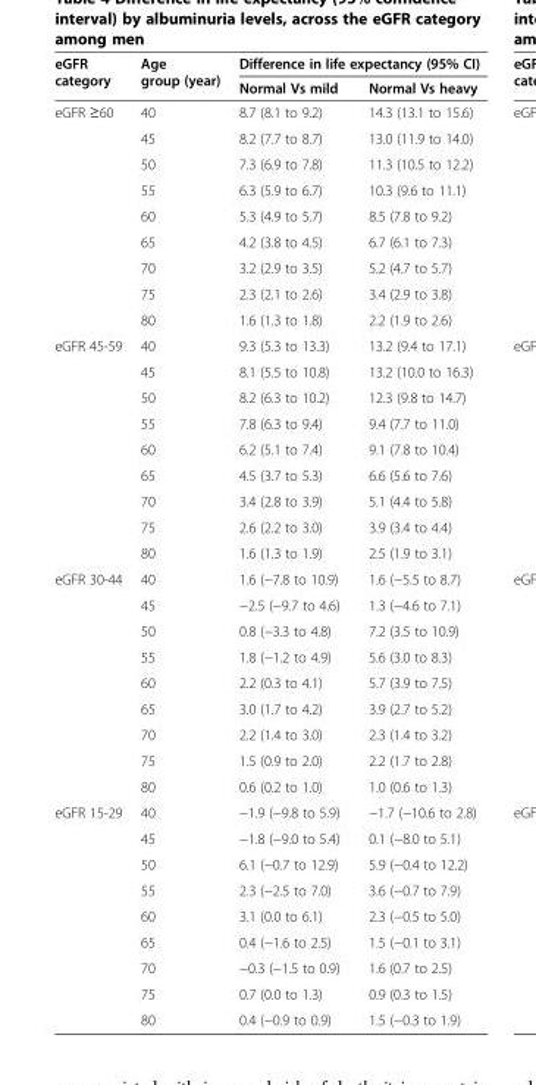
<table><thead><tr><td rowspan="2">eGFR category</td><td rowspan="2">Age group (year)</td><td colspan="2">Difference in life expectancy (95% CI)</td></tr><tr><td>Normal Vs mild</td><td>Normal Vs heavy</td></tr></thead><tbody><tr><td rowspan="9">eGFR ≥60</td><td>40</td><td>8.7 (8.1 to 9.2)</td><td>14.3 (13.1 to 15.6)</td></tr><tr><td>45</td><td>8.2 (7.7 to 8.7)</td><td>13.0 (11.9 to 14.0)</td></tr><tr><td>50</td><td>7.3 (6.9 to 7.8)</td><td>11.3 (10.5 to 12.2)</td></tr><tr><td>55</td><td>6.3 (5.9 to 6.7)</td><td>10.3 (9.6 to 11.1)</td></tr><tr><td>60</td><td>5.3 (4.9 to 5.7)</td><td>8.5 (7.8 to 9.2)</td></tr><tr><td>65</td><td>4.2 (3.8 to 4.5)</td><td>6.7 (6.1 to 7.3)</td></tr><tr><td>70</td><td>3.2 (2.9 to 3.5)</td><td>5.2 (4.7 to 5.7)</td></tr><tr><td>75</td><td>2.3 (2.1 to 2.6)</td><td>3.4 (2.9 to 3.8)</td></tr><tr><td>80</td><td>1.6 (1.3 to 1.8)</td><td>2.2 (1.9 to 2.6)</td></tr><tr><td rowspan="9">eGFR 45-59</td><td>40</td><td>9.3 (5.3 to 13.3)</td><td>13.2 (9.4 to 17.1)</td></tr><tr><td>45</td><td>8.1 (5.5 to 10.8)</td><td>13.2 (10.0 to 16.3)</td></tr><tr><td>50</td><td>8.2 (6.3 to 10.2)</td><td>12.3 (9.8 to 14.7)</td></tr><tr><td>55</td><td>7.8 (6.3 to 9.4)</td><td>9.4 (7.7 to 11.0)</td></tr><tr><td>60</td><td>6.2 (5.1 to 7.4)</td><td>9.1 (7.8 to 10.4)</td></tr><tr><td>65</td><td>4.5 (3.7 to 5.3)</td><td>6.6 (5.6 to 7.6)</td></tr><tr><td>70</td><td>3.4 (2.8 to 3.9)</td><td>5.1 (4.4 to 5.8)</td></tr><tr><td>75</td><td>2.6 (2.2 to 3.0)</td><td>3.9 (3.4 to 4.4)</td></tr><tr><td>80</td><td>1.6 (1.3 to 1.9)</td><td>2.5 (1.9 to 3.1)</td></tr><tr><td rowspan="9">eGFR 30-44</td><td>40</td><td>1.6 (−7.8 to 10.9)</td><td>1.6 (−5.5 to 8.7)</td></tr><tr><td>45</td><td>−2.5 (−9.7 to 4.6)</td><td>1.3 (−4.6 to 7.1)</td></tr><tr><td>50</td><td>0.8 (−3.3 to 4.8)</td><td>7.2 (3.5 to 10.9)</td></tr><tr><td>55</td><td>1.8 (−1.2 to 4.9)</td><td>5.6 (3.0 to 8.3)</td></tr><tr><td>60</td><td>2.2 (0.3 to 4.1)</td><td>5.7 (3.9 to 7.5)</td></tr><tr><td>65</td><td>3.0 (1.7 to 4.2)</td><td>3.9 (2.7 to 5.2)</td></tr><tr><td>70</td><td>2.2 (1.4 to 3.0)</td><td>2.3 (1.4 to 3.2)</td></tr><tr><td>75</td><td>1.5 (0.9 to 2.0)</td><td>2.2 (1.7 to 2.8)</td></tr><tr><td>80</td><td>0.6 (0.2 to 1.0)</td><td>1.0 (0.6 to 1.3)</td></tr><tr><td rowspan="9">eGFR 15-29</td><td>40</td><td>−1.9 (−9.8 to 5.9)</td><td>−1.7 (−10.6 to 2.8)</td></tr><tr><td>45</td><td>−1.8 (−9.0 to 5.4)</td><td>0.1 (−8.0 to 5.1)</td></tr><tr><td>50</td><td>6.1 (−0.7 to 12.9)</td><td>5.9 (−0.4 to 12.2)</td></tr><tr><td>55</td><td>2.3 (−2.5 to 7.0)</td><td>3.6 (−0.7 to 7.9)</td></tr><tr><td>60</td><td>3.1 (0.0 to 6.1)</td><td>2.3 (−0.5 to 5.0)</td></tr><tr><td>65</td><td>0.4 (−1.6 to 2.5)</td><td>1.5 (−0.1 to 3.1)</td></tr><tr><td>70</td><td>−0.3 (−1.5 to 0.9)</td><td>1.6 (0.7 to 2.5)</td></tr><tr><td>75</td><td>0.7 (0.0 to 1.3)</td><td>0.9 (0.3 to 1.5)</td></tr><tr><td>80</td><td>0.4 (−0.9 to 0.9)</td><td>1.5 (−0.3 to 1.9)</td></tr></tbody></table>